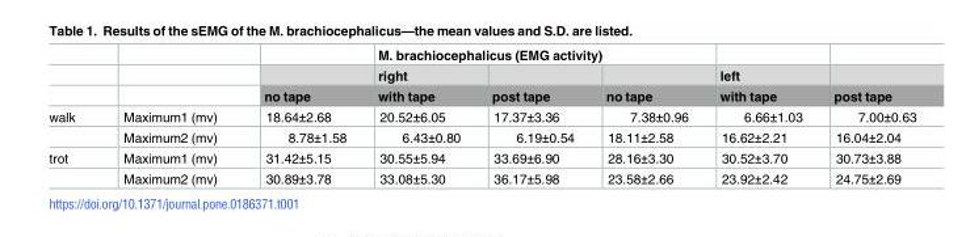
<table><thead><tr><td rowspan="3"></td><td rowspan="3"></td><td rowspan="3">no tape</td><td colspan="3">M. brachiocephalicus (EMG activity)</td><td rowspan="3">left with tape</td><td rowspan="3">post tape</td></tr><tr><td rowspan="2">right with tape</td><td rowspan="2">post tape</td><td rowspan="2">no tape</td></tr><tr></tr></thead><tbody><tr><td rowspan="2">walk</td><td>Maximum1 (mv)</td><td>18.64±2.68</td><td>20.52±6.05</td><td>17.37±3.36</td><td>7.38±0.96</td><td>6.66±1.03</td><td>7.00±0.63</td></tr><tr><td>Maximum2 (mv)</td><td>8.78±1.58</td><td>6.43±0.80</td><td>6.19±0.54</td><td>18.11±2.58</td><td>16.62±2.21</td><td>16.04±2.04</td></tr><tr><td rowspan="2">trot</td><td>Maximum1 (mv)</td><td>31.42±5.15</td><td>30.55±5.94</td><td>33.69±6.90</td><td>28.16±3.30</td><td>30.52±3.70</td><td>30.73±3.88</td></tr><tr><td>Maximum2 (mv)</td><td>30.89±3.78</td><td>33.08±5.30</td><td>36.17±5.98</td><td>23.58±2.66</td><td>23.92±2.42</td><td>24.75±2.69</td></tr></tbody></table>